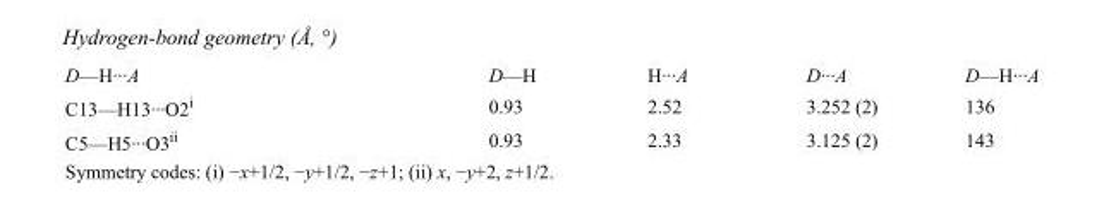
<table><tbody><tr><td>D—H···A</td><td>D—H</td><td>H···A</td><td>D···A</td><td>D—H···A</td></tr><tr><td>C13—H13···O2<sup>i</sup></td><td>0.93</td><td>2.52</td><td>3.252 (2)</td><td>136</td></tr><tr><td>C5—H5···O3<sup>ii</sup></td><td>0.93</td><td>2.33</td><td>3.125 (2)</td><td>143</td></tr></tbody></table>